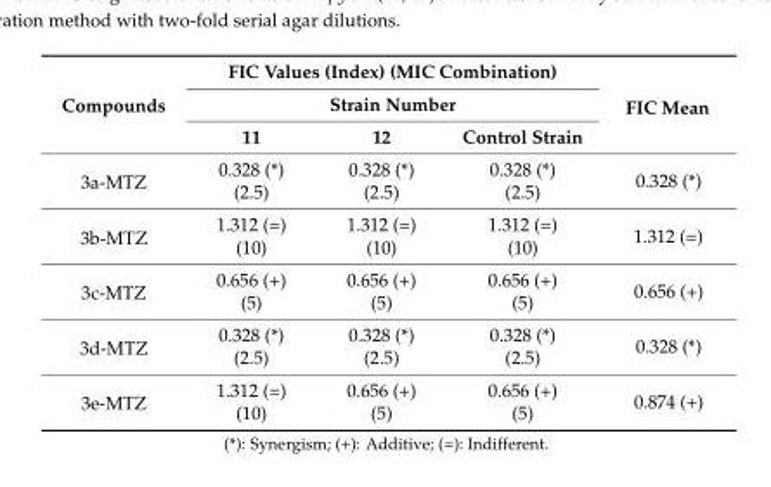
<table><thead><tr><td rowspan="3">Compounds</td><td rowspan="2" colspan="3">FIC Values (Index) (MIC Combination) Strain Number</td><td rowspan="3">FIC Mean</td></tr><tr></tr><tr><td>11</td><td>12</td><td>Control Strain</td></tr></thead><tbody><tr><td rowspan="2">3a-MTZ</td><td>0.328 (*)</td><td>0.328 (*)</td><td>0.328 (*)</td><td rowspan="2">0.328 (*)</td></tr><tr><td>(2.5)</td><td>(2.5)</td><td>(2.5)</td></tr><tr><td rowspan="2">3b-MTZ</td><td>1.312 (=)</td><td>1.312 (=)</td><td>1.312 (=)</td><td rowspan="2">1.312 (=)</td></tr><tr><td>(10)</td><td>(10)</td><td>(10)</td></tr><tr><td rowspan="2">3c-MTZ</td><td>0.656 (+)</td><td>0.656 (+)</td><td>0.656 (+)</td><td rowspan="2">0.656 (+)</td></tr><tr><td>(5)</td><td>(5)</td><td>(5)</td></tr><tr><td rowspan="2">3d-MTZ</td><td>0.328 (*)</td><td>0.328 (*)</td><td>0.328 (*)</td><td rowspan="2">0.328 (*)</td></tr><tr><td>(2.5)</td><td>(2.5)</td><td>(2.5)</td></tr><tr><td rowspan="2">3e-MTZ</td><td>1.312 (=)</td><td>0.656 (+)</td><td>0.656 (+)</td><td rowspan="2">0.874 (+)</td></tr><tr><td>(10)</td><td>(5)</td><td>(5)</td></tr></tbody></table>